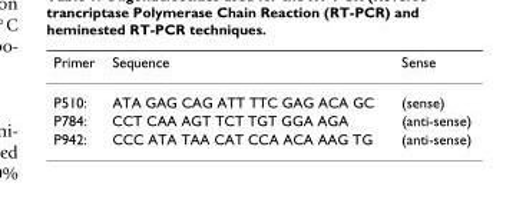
<table><thead><tr><td>Primer</td><td>Sequence</td><td>Sense</td></tr></thead><tbody><tr><td>P510:</td><td>ATA GAG CAG ATT TTC GAG ACA GC</td><td>(sense)</td></tr><tr><td>P784:</td><td>CCT CAA AGT TCT TGT GGA AGA</td><td>(anti-sense)</td></tr><tr><td>P942:</td><td>CCC ATA TAA CAT CCA ACA AAG TG</td><td>(anti-sense)</td></tr></tbody></table>